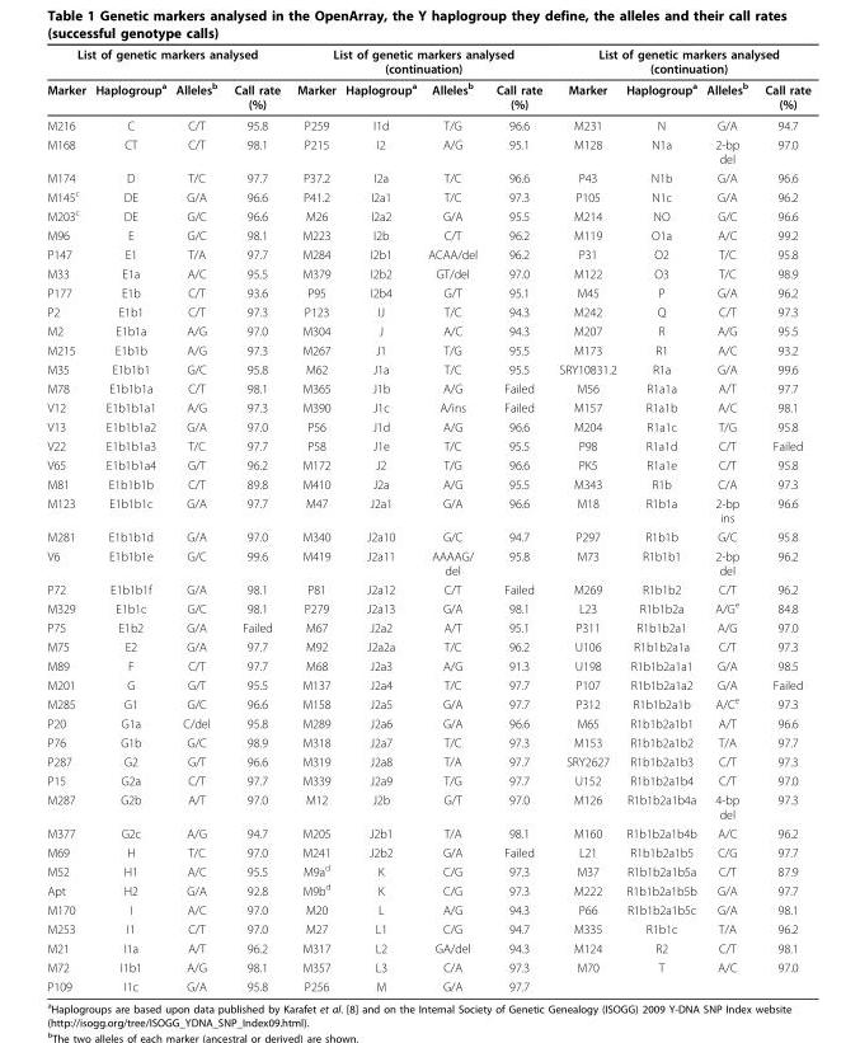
<table><thead><tr><td colspan="4">List of genetic markers analysed</td><td colspan="4">List of genetic markers analysed (continuation)</td><td colspan="4">List of genetic markers analysed (continuation)</td></tr><tr><td>Marker</td><td>Haplogroup<sup>a</sup></td><td>Alleles<sup>b</sup></td><td>Call rate (%)</td><td>Marker</td><td>Haplogroup<sup>a</sup></td><td>Alleles<sup>b</sup></td><td>Call rate (%)</td><td>Marker</td><td>Haplogroup<sup>a</sup></td><td>Alleles<sup>b</sup></td><td>Call rate (%)</td></tr></thead><tbody><tr><td>M216</td><td>C</td><td>C/T</td><td>95.8</td><td>P259</td><td>I1d</td><td>T/G</td><td>96.6</td><td>M231</td><td>N</td><td>G/A</td><td>94.7</td></tr><tr><td>M168</td><td>CT</td><td>C/T</td><td>98.1</td><td>P215</td><td>I2</td><td>A/G</td><td>95.1</td><td>M128</td><td>N1a</td><td>2-bp del</td><td>97.0</td></tr><tr><td>M174</td><td>D</td><td>T/C</td><td>97.7</td><td>P37.2</td><td>I2a</td><td>T/C</td><td>96.6</td><td>P43</td><td>N1b</td><td>G/A</td><td>96.6</td></tr><tr><td>M145<sup>c</sup></td><td>DE</td><td>G/A</td><td>96.6</td><td>P41.2</td><td>I2a1</td><td>T/C</td><td>97.3</td><td>P105</td><td>N1c</td><td>G/A</td><td>96.2</td></tr><tr><td>M203<sup>c</sup></td><td>DE</td><td>G/C</td><td>96.6</td><td>M26</td><td>I2a2</td><td>G/A</td><td>95.5</td><td>M214</td><td>NO</td><td>G/C</td><td>96.6</td></tr><tr><td>M96</td><td>E</td><td>G/C</td><td>98.1</td><td>M223</td><td>I2b</td><td>C/T</td><td>96.2</td><td>M119</td><td>O1a</td><td>A/C</td><td>99.2</td></tr><tr><td>P147</td><td>E1</td><td>T/A</td><td>97.7</td><td>M284</td><td>I2b1</td><td>ACAA/del</td><td>96.2</td><td>P31</td><td>O2</td><td>T/C</td><td>95.8</td></tr><tr><td>M33</td><td>E1a</td><td>A/C</td><td>95.5</td><td>M379</td><td>I2b2</td><td>GT/del</td><td>97.0</td><td>M122</td><td>O3</td><td>T/C</td><td>98.9</td></tr><tr><td>P177</td><td>E1b</td><td>C/T</td><td>93.6</td><td>P95</td><td>I2b4</td><td>G/T</td><td>95.1</td><td>M45</td><td>P</td><td>G/A</td><td>96.2</td></tr><tr><td>P2</td><td>E1b1</td><td>C/T</td><td>97.3</td><td>P123</td><td>IJ</td><td>T/C</td><td>94.3</td><td>M242</td><td>Q</td><td>C/T</td><td>97.3</td></tr><tr><td>M2</td><td>E1b1a</td><td>A/G</td><td>97.0</td><td>M304</td><td>J</td><td>A/C</td><td>94.3</td><td>M207</td><td>R</td><td>A/G</td><td>95.5</td></tr><tr><td>M215</td><td>E1b1b</td><td>A/G</td><td>97.3</td><td>M267</td><td>J1</td><td>T/G</td><td>95.5</td><td>M173</td><td>R1</td><td>A/C</td><td>93.2</td></tr><tr><td>M35</td><td>E1b1b1</td><td>G/C</td><td>95.8</td><td>M62</td><td>J1a</td><td>T/C</td><td>95.5</td><td>SRY10831.2</td><td>R1a</td><td>G/A</td><td>99.6</td></tr><tr><td>M78</td><td>E1b1b1a</td><td>C/T</td><td>98.1</td><td>M365</td><td>J1b</td><td>A/G</td><td>Failed</td><td>M56</td><td>R1a1a</td><td>A/T</td><td>97.7</td></tr><tr><td>V12</td><td>E1b1b1a1</td><td>A/G</td><td>97.3</td><td>M390</td><td>J1c</td><td>A/ins</td><td>Failed</td><td>M157</td><td>R1a1b</td><td>A/C</td><td>98.1</td></tr><tr><td>V13</td><td>E1b1b1a2</td><td>G/A</td><td>97.0</td><td>P56</td><td>J1d</td><td>A/G</td><td>96.6</td><td>M204</td><td>R1a1c</td><td>T/G</td><td>95.8</td></tr><tr><td>V22</td><td>E1b1b1a3</td><td>T/C</td><td>97.7</td><td>P58</td><td>J1e</td><td>T/C</td><td>95.5</td><td>P98</td><td>R1a1d</td><td>C/T</td><td>Failed</td></tr><tr><td>V65</td><td>E1b1b1a4</td><td>G/T</td><td>96.2</td><td>M172</td><td>J2</td><td>T/G</td><td>96.6</td><td>PK5</td><td>R1a1e</td><td>C/T</td><td>95.8</td></tr><tr><td>M81</td><td>E1b1b1b</td><td>C/T</td><td>89.8</td><td>M410</td><td>J2a</td><td>A/G</td><td>95.5</td><td>M343</td><td>R1b</td><td>C/A</td><td>97.3</td></tr><tr><td>M123</td><td>E1b1b1c</td><td>G/A</td><td>97.7</td><td>M47</td><td>J2a1</td><td>G/A</td><td>96.6</td><td>M18</td><td>R1b1a</td><td>2-bp ins</td><td>96.6</td></tr><tr><td>M281</td><td>E1b1b1d</td><td>G/A</td><td>97.0</td><td>M340</td><td>J2a10</td><td>G/C</td><td>94.7</td><td>P297</td><td>R1b1b</td><td>G/C</td><td>95.8</td></tr><tr><td>V6</td><td>E1b1b1e</td><td>G/C</td><td>99.6</td><td>M419</td><td>J2a11</td><td>AAAAG/ del</td><td>95.8</td><td>M73</td><td>R1b1b1</td><td>2-bp del</td><td>96.2</td></tr><tr><td>P72</td><td>E1b1b1f</td><td>G/A</td><td>98.1</td><td>P81</td><td>J2a12</td><td>C/T</td><td>Failed</td><td>M269</td><td>R1b1b2</td><td>C/T</td><td>96.2</td></tr><tr><td>M329</td><td>E1b1c</td><td>G/C</td><td>98.1</td><td>P279</td><td>J2a13</td><td>G/A</td><td>98.1</td><td>L23</td><td>R1b1b2a</td><td>A/G<sup>e</sup></td><td>84.8</td></tr><tr><td>P75</td><td>E1b2</td><td>G/A</td><td>Failed</td><td>M67</td><td>J2a2</td><td>A/T</td><td>95.1</td><td>P311</td><td>R1b1b2a1</td><td>A/G</td><td>97.0</td></tr><tr><td>M75</td><td>E2</td><td>G/A</td><td>97.7</td><td>M92</td><td>J2a2a</td><td>T/C</td><td>96.2</td><td>U106</td><td>R1b1b2a1a</td><td>C/T</td><td>97.3</td></tr><tr><td>M89</td><td>F</td><td>C/T</td><td>97.7</td><td>M68</td><td>J2a3</td><td>A/G</td><td>91.3</td><td>U198</td><td>R1b1b2a1a1</td><td>G/A</td><td>98.5</td></tr><tr><td>M201</td><td>G</td><td>G/T</td><td>95.5</td><td>M137</td><td>J2a4</td><td>T/C</td><td>97.7</td><td>P107</td><td>R1b1b2a1a2</td><td>G/A</td><td>Failed</td></tr><tr><td>M285</td><td>G1</td><td>G/C</td><td>96.6</td><td>M158</td><td>J2a5</td><td>G/A</td><td>97.7</td><td>P312</td><td>R1b1b2a1b</td><td>A/C<sup>e</sup></td><td>97.3</td></tr><tr><td>P20</td><td>G1a</td><td>C/del</td><td>95.8</td><td>M289</td><td>J2a6</td><td>G/A</td><td>96.6</td><td>M65</td><td>R1b1b2a1b1</td><td>A/T</td><td>96.6</td></tr><tr><td>P76</td><td>G1b</td><td>G/C</td><td>98.9</td><td>M318</td><td>J2a7</td><td>T/C</td><td>97.3</td><td>M153</td><td>R1b1b2a1b2</td><td>T/A</td><td>97.7</td></tr><tr><td>P287</td><td>G2</td><td>G/T</td><td>96.6</td><td>M319</td><td>J2a8</td><td>T/A</td><td>97.7</td><td>SRY2627</td><td>R1b1b2a1b3</td><td>C/T</td><td>97.3</td></tr><tr><td>P15</td><td>G2a</td><td>C/T</td><td>97.7</td><td>M339</td><td>J2a9</td><td>T/G</td><td>97.7</td><td>U152</td><td>R1b1b2a1b4</td><td>C/T</td><td>97.0</td></tr><tr><td>M287</td><td>G2b</td><td>A/T</td><td>97.0</td><td>M12</td><td>J2b</td><td>G/T</td><td>97.0</td><td>M126</td><td>R1b1b2a1b4a</td><td>4-bp del</td><td>97.3</td></tr><tr><td>M377</td><td>G2c</td><td>A/G</td><td>94.7</td><td>M205</td><td>J2b1</td><td>T/A</td><td>98.1</td><td>M160</td><td>R1b1b2a1b4b</td><td>A/C</td><td>96.2</td></tr><tr><td>M69</td><td>H</td><td>T/C</td><td>97.0</td><td>M241</td><td>J2b2</td><td>G/A</td><td>Failed</td><td>L21</td><td>R1b1b2a1b5</td><td>C/G</td><td>97.7</td></tr><tr><td>M52</td><td>H1</td><td>A/C</td><td>95.5</td><td>M9a<sup>d</sup></td><td>K</td><td>C/G</td><td>97.3</td><td>M37</td><td>R1b1b2a1b5a</td><td>C/T</td><td>87.9</td></tr><tr><td>Apt</td><td>H2</td><td>G/A</td><td>92.8</td><td>M9b<sup>d</sup></td><td>K</td><td>C/G</td><td>97.3</td><td>M222</td><td>R1b1b2a1b5b</td><td>G/A</td><td>97.7</td></tr><tr><td>M170</td><td>I</td><td>A/C</td><td>97.0</td><td>M20</td><td>L</td><td>A/G</td><td>94.3</td><td>P66</td><td>R1b1b2a1b5c</td><td>G/A</td><td>98.1</td></tr><tr><td>M253</td><td>I1</td><td>C/T</td><td>97.0</td><td>M27</td><td>L1</td><td>C/G</td><td>94.7</td><td>M335</td><td>R1b1c</td><td>T/A</td><td>96.2</td></tr><tr><td>M21</td><td>I1a</td><td>A/T</td><td>96.2</td><td>M317</td><td>L2</td><td>GA/del</td><td>94.3</td><td>M124</td><td>R2</td><td>C/T</td><td>98.1</td></tr><tr><td>M72</td><td>I1b1</td><td>A/G</td><td>98.1</td><td>M357</td><td>L3</td><td>C/A</td><td>97.3</td><td>M70</td><td>T</td><td>A/C</td><td>97.0</td></tr><tr><td>P109</td><td>I1c</td><td>G/A</td><td>95.8</td><td>P256</td><td>M</td><td>G/A</td><td>97.7</td><td></td><td></td><td></td><td></td></tr></tbody></table>